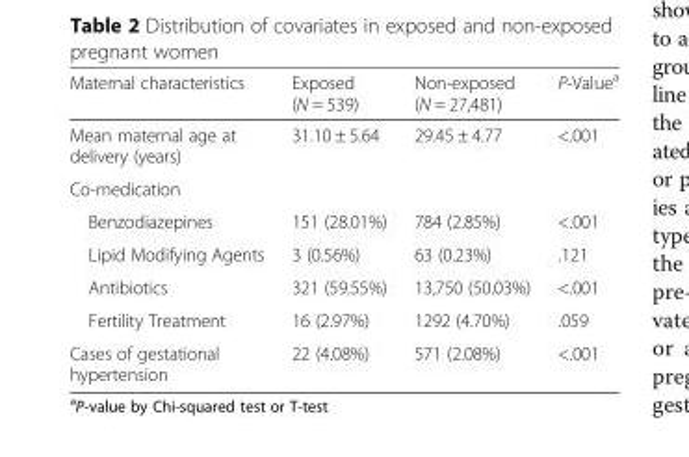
<table><thead><tr><td>Maternal characteristics</td><td>Exposed (N = 539)</td><td>Non-exposed (N = 27,481)</td><td>P-Value<sup>a</sup></td></tr></thead><tbody><tr><td>Mean maternal age at delivery (years)</td><td>31.10 ± 5.64</td><td>29.45 ± 4.77</td><td>&lt;.001</td></tr><tr><td colspan="4">Co-medication</td></tr><tr><td>Benzodiazepines</td><td>151 (28.01%)</td><td>784 (2.85%)</td><td>&lt;.001</td></tr><tr><td>Lipid Modifying Agents</td><td>3 (0.56%)</td><td>63 (0.23%)</td><td>.121</td></tr><tr><td>Antibiotics</td><td>321 (59.55%)</td><td>13,750 (50.03%)</td><td>&lt;.001</td></tr><tr><td>Fertility Treatment</td><td>16 (2.97%)</td><td>1292 (4.70%)</td><td>.059</td></tr><tr><td>Cases of gestational hypertension</td><td>22 (4.08%)</td><td>571 (2.08%)</td><td>&lt;.001</td></tr></tbody></table>